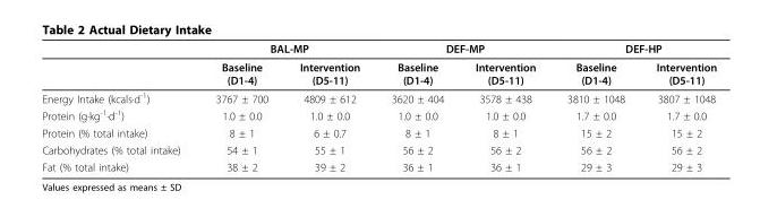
<table><thead><tr><td rowspan="2"></td><td colspan="2">BAL-MP</td><td colspan="2">DEF-MP</td><td colspan="2">DEF-HP</td></tr><tr><td>Baseline (D1-4)</td><td>Intervention (D5-11)</td><td>Baseline (D1-4)</td><td>Intervention (D5-11)</td><td>Baseline (D1-4)</td><td>Intervention (D5-11)</td></tr></thead><tbody><tr><td>Energy Intake (kcals·d<sup>-1</sup>)</td><td>3767 ± 700</td><td>4809 ± 612</td><td>3620 ± 404</td><td>3578 ± 438</td><td>3810 ± 1048</td><td>3807 ± 1048</td></tr><tr><td>Protein (g·kg<sup>-1</sup>·d<sup>-1</sup>)</td><td>1.0 ± 0.0</td><td>1.0 ± 0.0</td><td>1.0 ± 0.0</td><td>1.0 ± 0.0</td><td>1.7 ± 0.0</td><td>1.7 ± 0.0</td></tr><tr><td>Protein (% total intake)</td><td>8 ± 1</td><td>6 ± 0.7</td><td>8 ± 1</td><td>8 ± 1</td><td>15 ± 2</td><td>15 ± 2</td></tr><tr><td>Carbohydrates (% total intake)</td><td>54 ± 1</td><td>55 ± 1</td><td>56 ± 2</td><td>56 ± 2</td><td>56 ± 2</td><td>56 ± 2</td></tr><tr><td>Fat (% total intake)</td><td>38 ± 2</td><td>39 ± 2</td><td>36 ± 1</td><td>36 ± 1</td><td>29 ± 3</td><td>29 ± 3</td></tr></tbody></table>